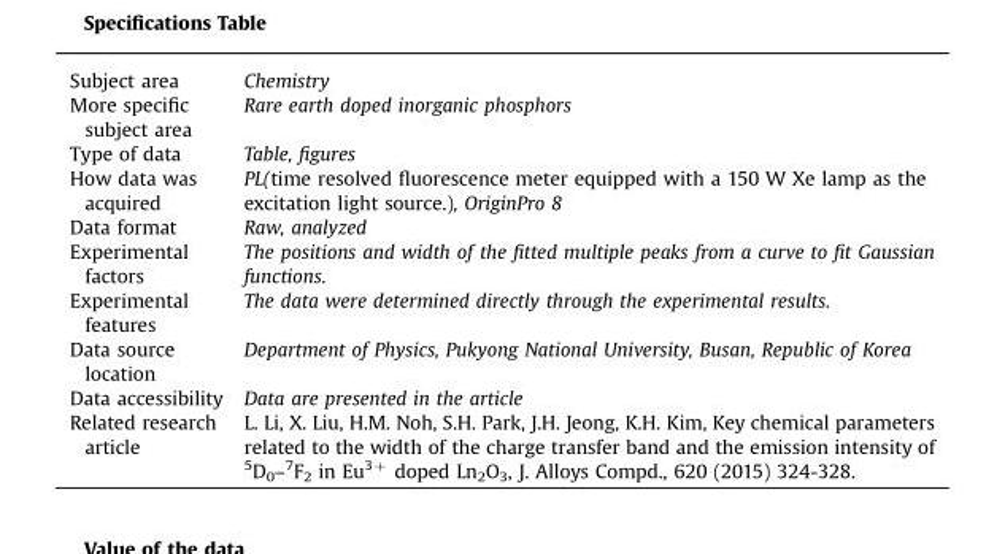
<table><tbody><tr><td>Subject area</td><td>Chemistry</td></tr><tr><td>More specific subject area</td><td>Rare earth doped inorganic phosphors</td></tr><tr><td>Type of data</td><td>Table, figures</td></tr><tr><td>How data was acquired</td><td>PL(time resolved fluorescence meter equipped with a 150 W Xe lamp as the excitation light source.), OriginPro 8</td></tr><tr><td>Data format</td><td>Raw, analyzed</td></tr><tr><td>Experimental factors</td><td>The positions and width of the fitted multiple peaks from a curve to fit Gaussian functions.</td></tr><tr><td>Experimental features</td><td>The data were determined directly through the experimental results.</td></tr><tr><td>Data source location</td><td>Department of Physics, Pukyong National University, Busan, Republic of Korea</td></tr><tr><td>Data accessibility</td><td>Data are presented in the article</td></tr><tr><td>Related research article</td><td>L. Li, X. Liu, H.M. Noh, S.H. Park, J.H. Jeong, K.H. Kim, Key chemical parameters related to the width of the charge transfer band and the emission intensity of <sup>5</sup>D<sub>0</sub>–<sup>7</sup>F<sub>2</sub> in Eu<sup>3+</sup> doped Ln<sub>2</sub>O<sub>3</sub>, J. Alloys Compd., 620 (2015) 324-328.</td></tr></tbody></table>